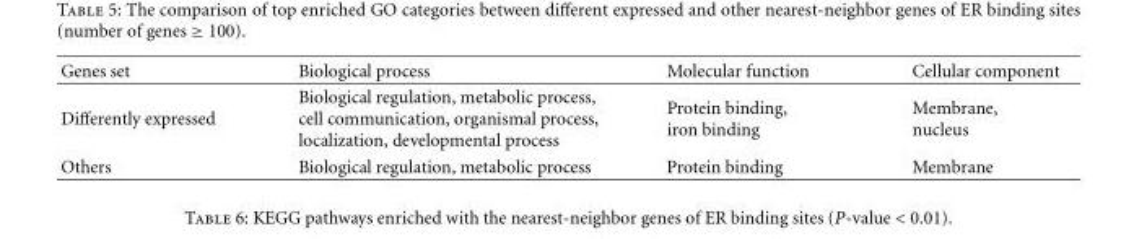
<table><thead><tr><td>Genes set</td><td>Biological process</td><td>Molecular function</td><td>Cellular component</td></tr></thead><tbody><tr><td>Differently expressed</td><td>Biological regulation, metabolic process, cell communication, organismal process, localization, developmental process</td><td>Protein binding, iron binding</td><td>Membrane, nucleus</td></tr><tr><td>Others</td><td>Biological regulation, metabolic process</td><td>Protein binding</td><td>Membrane</td></tr></tbody></table>